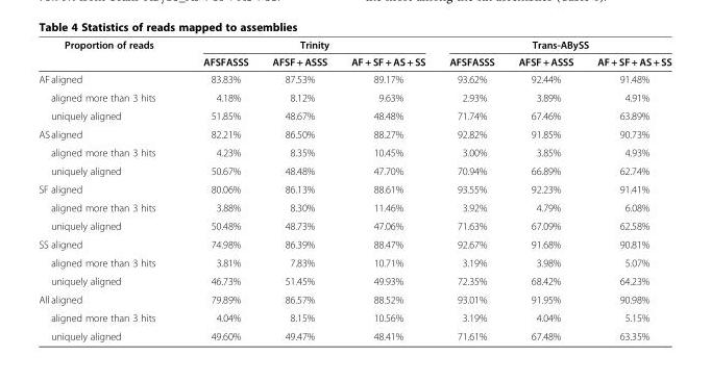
<table><thead><tr><td rowspan="2">Proportion of reads</td><td colspan="3">Trinity</td><td colspan="3">Trans-ABySS</td></tr><tr><td>AFSFASSS</td><td>AFSF + ASSS</td><td>AF + SF + AS + SS</td><td>AFSFASSS</td><td>AFSF + ASSS</td><td>AF + SF + AS + SS</td></tr></thead><tbody><tr><td>AFaligned</td><td>83.83%</td><td>87.53%</td><td>89.17%</td><td>93.62%</td><td>92.44%</td><td>91.48%</td></tr><tr><td>aligned more than 3 hits</td><td>4.18%</td><td>8.12%</td><td>9.63%</td><td>2.93%</td><td>3.89%</td><td>4.91%</td></tr><tr><td>uniquely aligned</td><td>51.85%</td><td>48.67%</td><td>48.48%</td><td>71.74%</td><td>67.46%</td><td>63.89%</td></tr><tr><td>ASaligned</td><td>82.21%</td><td>86.50%</td><td>88.27%</td><td>92.82%</td><td>91.85%</td><td>90.73%</td></tr><tr><td>aligned more than 3 hits</td><td>4.23%</td><td>8.35%</td><td>10.45%</td><td>3.00%</td><td>3.85%</td><td>4.93%</td></tr><tr><td>uniquely aligned</td><td>50.67%</td><td>48.48%</td><td>47.70%</td><td>70.94%</td><td>66.89%</td><td>62.74%</td></tr><tr><td>SF aligned</td><td>80.06%</td><td>86.13%</td><td>88.61%</td><td>93.55%</td><td>92.23%</td><td>91.41%</td></tr><tr><td>aligned more than 3 hits</td><td>3.88%</td><td>8.30%</td><td>11.46%</td><td>3.92%</td><td>4.79%</td><td>6.08%</td></tr><tr><td>uniquely aligned</td><td>50.48%</td><td>48.73%</td><td>47.06%</td><td>71.63%</td><td>67.09%</td><td>62.58%</td></tr><tr><td>SS aligned</td><td>74.98%</td><td>86.39%</td><td>88.47%</td><td>92.67%</td><td>91.68%</td><td>90.81%</td></tr><tr><td>aligned more than 3 hits</td><td>3.81%</td><td>7.83%</td><td>10.71%</td><td>3.19%</td><td>3.98%</td><td>5.07%</td></tr><tr><td>uniquely aligned</td><td>46.73%</td><td>51.45%</td><td>49.93%</td><td>72.35%</td><td>68.42%</td><td>64.23%</td></tr><tr><td>All aligned</td><td>79.89%</td><td>86.57%</td><td>88.52%</td><td>93.01%</td><td>91.95%</td><td>90.98%</td></tr><tr><td>aligned more than 3 hits</td><td>4.04%</td><td>8.15%</td><td>10.56%</td><td>3.19%</td><td>4.04%</td><td>5.15%</td></tr><tr><td>uniquely aligned</td><td>49.60%</td><td>49.47%</td><td>48.41%</td><td>71.61%</td><td>67.48%</td><td>63.35%</td></tr></tbody></table>